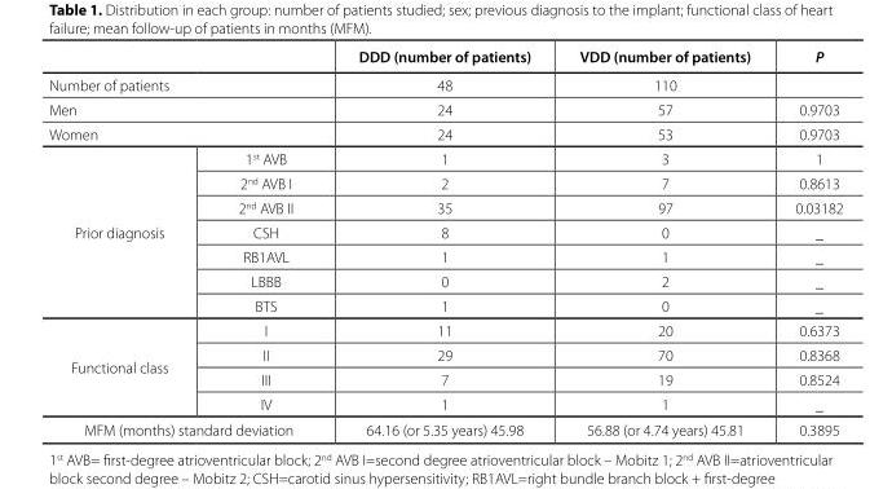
<table><thead><tr><td></td><td></td><td>DDD (number of patients)</td><td>VDD (number of patients)</td><td>P</td></tr></thead><tbody><tr><td colspan="2">Number of patients</td><td>48</td><td>110</td><td></td></tr><tr><td colspan="2">Men</td><td>24</td><td>57</td><td>0.9703</td></tr><tr><td colspan="2">Women</td><td>24</td><td>53</td><td>0.9703</td></tr><tr><td rowspan="7">Prior diagnosis</td><td>1<sup>st</sup> AVB</td><td>1</td><td>3</td><td>1</td></tr><tr><td>2<sup>nd</sup> AVB I</td><td>2</td><td>7</td><td>0.8613</td></tr><tr><td>2<sup>nd</sup> AVB II</td><td>35</td><td>97</td><td>0.03182</td></tr><tr><td>CSH</td><td>8</td><td>0</td><td>_</td></tr><tr><td>RB1AVL</td><td>1</td><td>1</td><td>_</td></tr><tr><td>LBBB</td><td>0</td><td>2</td><td>_</td></tr><tr><td>BTS</td><td>1</td><td>0</td><td>_</td></tr><tr><td rowspan="4">Functional class</td><td>I</td><td>11</td><td>20</td><td>0.6373</td></tr><tr><td>II</td><td>29</td><td>70</td><td>0.8368</td></tr><tr><td>III</td><td>7</td><td>19</td><td>0.8524</td></tr><tr><td>IV</td><td>1</td><td>1</td><td>_</td></tr><tr><td colspan="2">MFM (months) standard deviation</td><td>64.16 (or 5.35 years) 45.98</td><td>56.88 (or 4.74 years) 45.81</td><td>0.3895</td></tr></tbody></table>